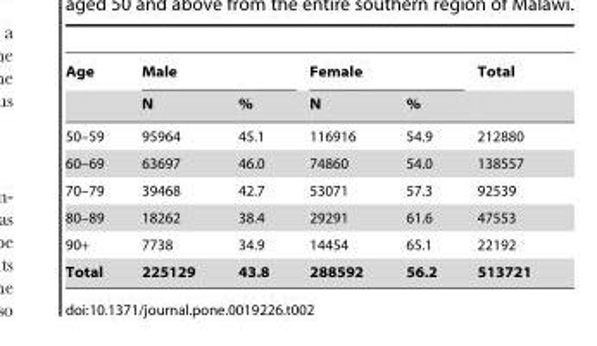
<table><thead><tr><td rowspan="2">Age</td><td colspan="2">Male</td><td colspan="2">Female</td><td rowspan="2">Total</td></tr><tr><td>N</td><td>%</td><td>N</td><td>%</td></tr></thead><tbody><tr><td>50–59</td><td>95964</td><td>45.1</td><td>116916</td><td>54.9</td><td>212880</td></tr><tr><td>60–69</td><td>63697</td><td>46.0</td><td>74860</td><td>54.0</td><td>138557</td></tr><tr><td>70–79</td><td>39468</td><td>42.7</td><td>53071</td><td>57.3</td><td>92539</td></tr><tr><td>80–89</td><td>18262</td><td>38.4</td><td>29291</td><td>61.6</td><td>47553</td></tr><tr><td>90+</td><td>7738</td><td>34.9</td><td>14454</td><td>65.1</td><td>22192</td></tr><tr><td>Total</td><td>225129</td><td>43.8</td><td>288592</td><td>56.2</td><td>513721</td></tr></tbody></table>